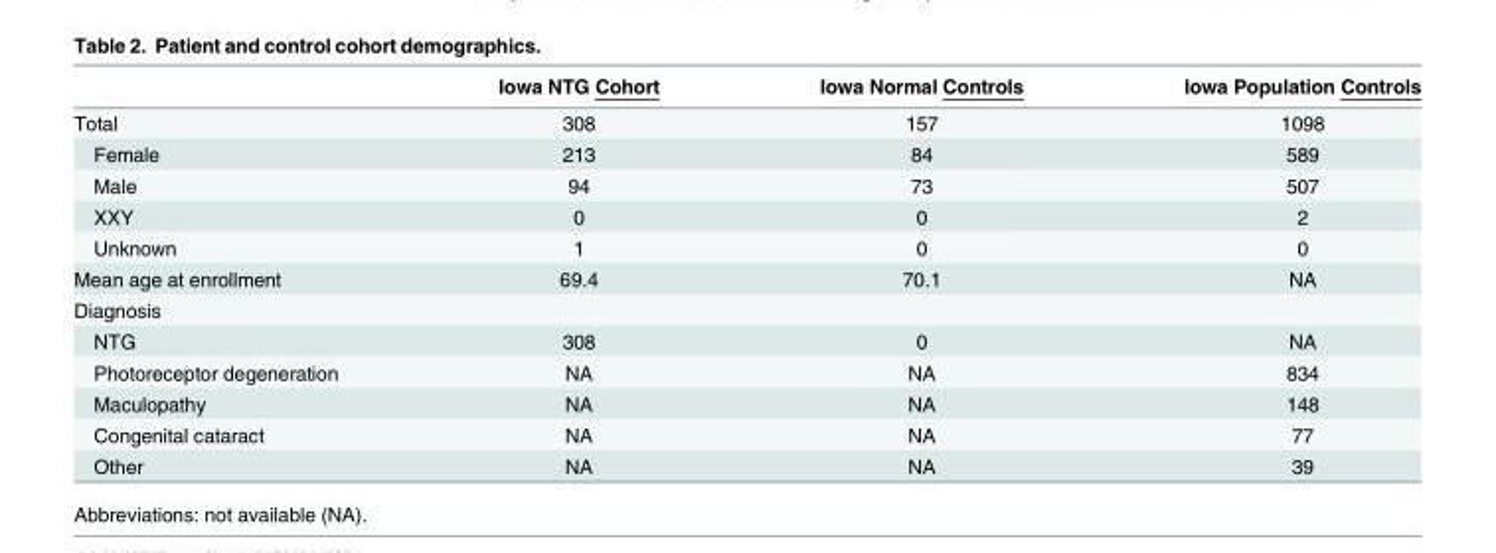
<table><thead><tr><td></td><td>Iowa NTG Cohort</td><td>Iowa Normal Controls</td><td>Iowa Population Controls</td></tr></thead><tbody><tr><td>Total</td><td>308</td><td>157</td><td>1098</td></tr><tr><td>Female</td><td>213</td><td>84</td><td>589</td></tr><tr><td>Male</td><td>94</td><td>73</td><td>507</td></tr><tr><td>XXY</td><td>0</td><td>0</td><td>2</td></tr><tr><td>Unknown</td><td>1</td><td>0</td><td>0</td></tr><tr><td>Mean age at enrollment</td><td>69.4</td><td>70.1</td><td>NA</td></tr><tr><td colspan="4">Diagnosis</td></tr><tr><td>NTG</td><td>308</td><td>0</td><td>NA</td></tr><tr><td>Photoreceptor degeneration</td><td>NA</td><td>NA</td><td>834</td></tr><tr><td>Maculopathy</td><td>NA</td><td>NA</td><td>148</td></tr><tr><td>Congenital cataract</td><td>NA</td><td>NA</td><td>77</td></tr><tr><td>Other</td><td>NA</td><td>NA</td><td>39</td></tr></tbody></table>